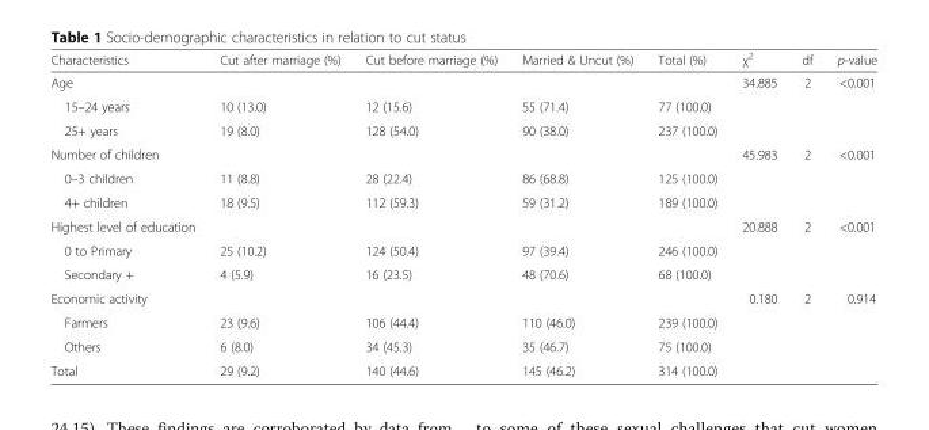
<table><thead><tr><td>Characteristics</td><td>Cut after marriage (%)</td><td>Cut before marriage (%)</td><td>Married &amp; Uncut (%)</td><td>Total (%)</td><td>χ<sup>2</sup></td><td>df</td><td>p-value</td></tr></thead><tbody><tr><td>Age</td><td></td><td></td><td></td><td></td><td>34.885</td><td>2</td><td>&lt;0.001</td></tr><tr><td>15–24 years</td><td>10 (13.0)</td><td>12 (15.6)</td><td>55 (71.4)</td><td>77 (100.0)</td><td></td><td></td><td></td></tr><tr><td>25+ years</td><td>19 (8.0)</td><td>128 (54.0)</td><td>90 (38.0)</td><td>237 (100.0)</td><td></td><td></td><td></td></tr><tr><td>Number of children</td><td></td><td></td><td></td><td></td><td>45.983</td><td>2</td><td>&lt;0.001</td></tr><tr><td>0–3 children</td><td>11 (8.8)</td><td>28 (22.4)</td><td>86 (68.8)</td><td>125 (100.0)</td><td></td><td></td><td></td></tr><tr><td>4+ children</td><td>18 (9.5)</td><td>112 (59.3)</td><td>59 (31.2)</td><td>189 (100.0)</td><td></td><td></td><td></td></tr><tr><td>Highest level of education</td><td></td><td></td><td></td><td></td><td>20.888</td><td>2</td><td>&lt;0.001</td></tr><tr><td>0 to Primary</td><td>25 (10.2)</td><td>124 (50.4)</td><td>97 (39.4)</td><td>246 (100.0)</td><td></td><td></td><td></td></tr><tr><td>Secondary +</td><td>4 (5.9)</td><td>16 (23.5)</td><td>48 (70.6)</td><td>68 (100.0)</td><td></td><td></td><td></td></tr><tr><td>Economic activity</td><td></td><td></td><td></td><td></td><td>0.180</td><td>2</td><td>0.914</td></tr><tr><td>Farmers</td><td>23 (9.6)</td><td>106 (44.4)</td><td>110 (46.0)</td><td>239 (100.0)</td><td></td><td></td><td></td></tr><tr><td>Others</td><td>6 (8.0)</td><td>34 (45.3)</td><td>35 (46.7)</td><td>75 (100.0)</td><td></td><td></td><td></td></tr><tr><td>Total</td><td>29 (9.2)</td><td>140 (44.6)</td><td>145 (46.2)</td><td>314 (100.0)</td><td></td><td></td><td></td></tr></tbody></table>